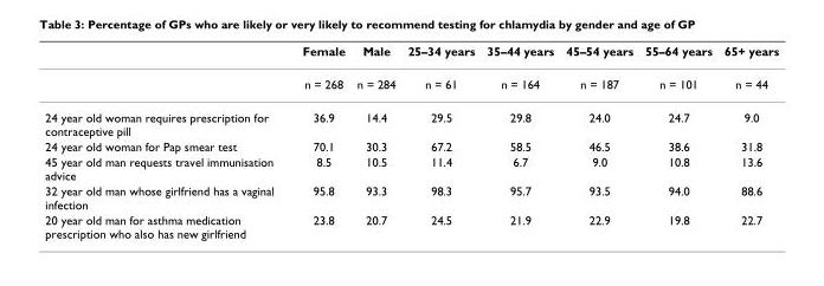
<table><thead><tr><td></td><td>Female</td><td>Male</td><td>25–34 years</td><td>35–44 years</td><td>45–54 years</td><td>55–64 years</td><td>65+ years</td></tr></thead><tbody><tr><td></td><td>n = 268</td><td>n = 284</td><td>n = 61</td><td>n = 164</td><td>n = 187</td><td>n = 101</td><td>n = 44</td></tr><tr><td>24 year old woman requires prescription for contraceptive pill</td><td>36.9</td><td>14.4</td><td>29.5</td><td>29.8</td><td>24.0</td><td>24.7</td><td>9.0</td></tr><tr><td>24 year old woman for Pap smear test</td><td>70.1</td><td>30.3</td><td>67.2</td><td>58.5</td><td>46.5</td><td>38.6</td><td>31.8</td></tr><tr><td>45 year old man requests travel immunisation advice</td><td>8.5</td><td>10.5</td><td>11.4</td><td>6.7</td><td>9.0</td><td>10.8</td><td>13.6</td></tr><tr><td>32 year old man whose girlfriend has a vaginal infection</td><td>95.8</td><td>93.3</td><td>98.3</td><td>95.7</td><td>93.5</td><td>94.0</td><td>88.6</td></tr><tr><td>20 year old man for asthma medication prescription who also has new girlfriend</td><td>23.8</td><td>20.7</td><td>24.5</td><td>21.9</td><td>22.9</td><td>19.8</td><td>22.7</td></tr></tbody></table>